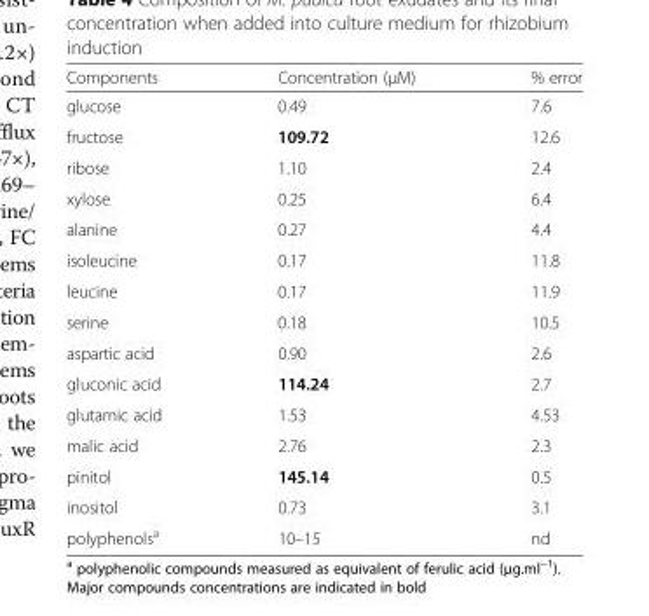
<table><thead><tr><td>Components</td><td>Concentration (μM)</td><td>% error</td></tr></thead><tbody><tr><td>glucose</td><td>0.49</td><td>7.6</td></tr><tr><td>fructose</td><td>109.72</td><td>12.6</td></tr><tr><td>ribose</td><td>1.10</td><td>2.4</td></tr><tr><td>xylose</td><td>0.25</td><td>6.4</td></tr><tr><td>alanine</td><td>0.27</td><td>4.4</td></tr><tr><td>isoleucine</td><td>0.17</td><td>11.8</td></tr><tr><td>leucine</td><td>0.17</td><td>11.9</td></tr><tr><td>serine</td><td>0.18</td><td>10.5</td></tr><tr><td>aspartic acid</td><td>0.90</td><td>2.6</td></tr><tr><td>gluconic acid</td><td>114.24</td><td>2.7</td></tr><tr><td>glutamic acid</td><td>1.53</td><td>4.53</td></tr><tr><td>malic acid</td><td>2.76</td><td>2.3</td></tr><tr><td>pinitol</td><td>145.14</td><td>0.5</td></tr><tr><td>inositol</td><td>0.73</td><td>3.1</td></tr><tr><td>polyphenols<sup>a</sup></td><td>10–15</td><td>nd</td></tr></tbody></table>